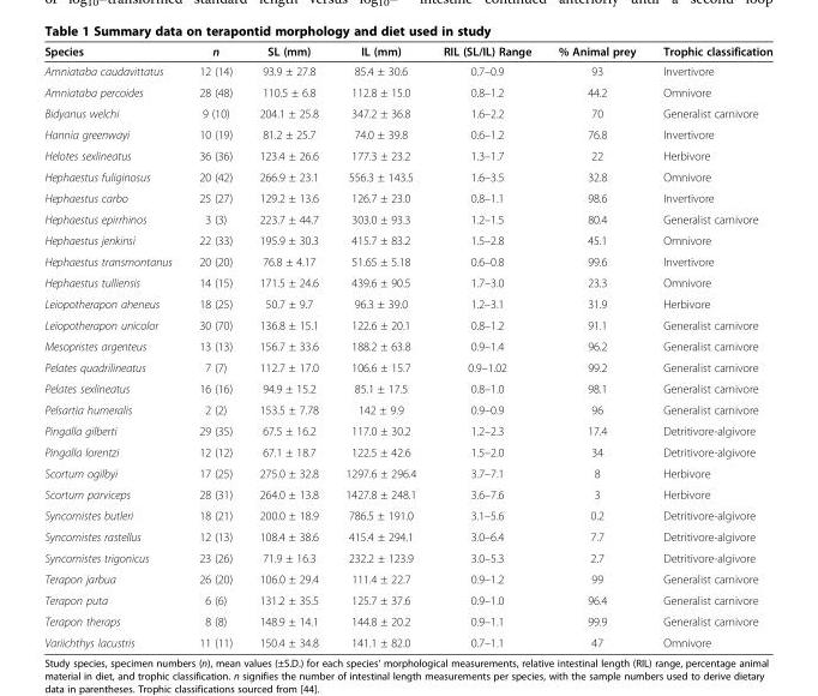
<table><thead><tr><td>Species</td><td>n</td><td>SL (mm)</td><td>IL (mm)</td><td>RIL (SL/IL) Range</td><td>% Animal prey</td><td>Trophic classification</td></tr></thead><tbody><tr><td>Amniataba caudavittatus</td><td>12 (14)</td><td>93.9 ± 27.8</td><td>85.4 ± 30.6</td><td>0.7–0.9</td><td>93</td><td>Invertivore</td></tr><tr><td>Amniataba percoides</td><td>28 (48)</td><td>110.5 ± 6.8</td><td>112.8 ± 15.0</td><td>0.8–1.2</td><td>44.2</td><td>Omnivore</td></tr><tr><td>Bidyanus welchi</td><td>9 (10)</td><td>204.1 ± 25.8</td><td>347.2 ± 36.8</td><td>1.6–2.2</td><td>70</td><td>Generalist carnivore</td></tr><tr><td>Hannia greenwayi</td><td>10 (19)</td><td>81.2 ± 25.7</td><td>74.0 ± 39.8</td><td>0.6–1.2</td><td>76.8</td><td>Invertivore</td></tr><tr><td>Helotes sexlineatus</td><td>36 (36)</td><td>123.4 ± 26.6</td><td>177.3 ± 23.2</td><td>1.3–1.7</td><td>22</td><td>Herbivore</td></tr><tr><td>Hephaestus fuliginosus</td><td>20 (42)</td><td>266.9 ± 23.1</td><td>556.3 ± 143.5</td><td>1.6–3.5</td><td>32.8</td><td>Omnivore</td></tr><tr><td>Hephaestus carbo</td><td>25 (27)</td><td>129.2 ± 13.6</td><td>126.7 ± 23.0</td><td>0.8–1.1</td><td>98.6</td><td>Invertivore</td></tr><tr><td>Hephaestus epirrhinos</td><td>3 (3)</td><td>223.7 ± 44.7</td><td>303.0 ± 93.3</td><td>1.2–1.5</td><td>80.4</td><td>Generalist carnivore</td></tr><tr><td>Hephaestus jenkinsi</td><td>22 (33)</td><td>195.9 ± 30.3</td><td>415.7 ± 83.2</td><td>1.5–2.8</td><td>45.1</td><td>Omnivore</td></tr><tr><td>Hephaestus transmontanus</td><td>20 (20)</td><td>76.8 ± 4.17</td><td>51.65 ± 5.18</td><td>0.6–0.8</td><td>99.6</td><td>Invertivore</td></tr><tr><td>Hephaestus tulliensis</td><td>14 (15)</td><td>171.5 ± 24.6</td><td>439.6 ± 90.5</td><td>1.7–3.0</td><td>23.3</td><td>Omnivore</td></tr><tr><td>Leiopotherapon aheneus</td><td>18 (25)</td><td>50.7 ± 9.7</td><td>96.3 ± 39.0</td><td>1.2–3.1</td><td>31.9</td><td>Herbivore</td></tr><tr><td>Leiopotherapon unicolor</td><td>30 (70)</td><td>136.8 ± 15.1</td><td>122.6 ± 20.1</td><td>0.8–1.2</td><td>91.1</td><td>Generalist carnivore</td></tr><tr><td>Mesopristes argenteus</td><td>13 (13)</td><td>156.7 ± 33.6</td><td>188.2 ± 63.8</td><td>0.9–1.4</td><td>96.2</td><td>Generalist carnivore</td></tr><tr><td>Pelates quadrilineatus</td><td>7 (7)</td><td>112.7 ± 17.0</td><td>106.6 ± 15.7</td><td>0.9–1.02</td><td>99.2</td><td>Generalist carnivore</td></tr><tr><td>Pelates sexlineatus</td><td>16 (16)</td><td>94.9 ± 15.2</td><td>85.1 ± 17.5</td><td>0.8–1.0</td><td>98.1</td><td>Generalist carnivore</td></tr><tr><td>Pelsartia humeralis</td><td>2 (2)</td><td>153.5 ± 7.78</td><td>142 ± 9.9</td><td>0.9–0.9</td><td>96</td><td>Generalist carnivore</td></tr><tr><td>Pingalla gilberti</td><td>29 (35)</td><td>67.5 ± 16.2</td><td>117.0 ± 30.2</td><td>1.2–2.3</td><td>17.4</td><td>Detritivore-algivore</td></tr><tr><td>Pingalla lorentzi</td><td>12 (12)</td><td>67.1 ± 18.7</td><td>122.5 ± 42.6</td><td>1.5–2.0</td><td>34</td><td>Detritivore-algivore</td></tr><tr><td>Scortum ogilbyi</td><td>17 (25)</td><td>275.0 ± 32.8</td><td>1297.6 ± 296.4</td><td>3.7–7.1</td><td>8</td><td>Herbivore</td></tr><tr><td>Scortum parviceps</td><td>28 (31)</td><td>264.0 ± 13.8</td><td>1427.8 ± 248.1</td><td>3.6–7.6</td><td>3</td><td>Herbivore</td></tr><tr><td>Syncomistes butleri</td><td>18 (21)</td><td>200.0 ± 18.9</td><td>786.5 ± 191.0</td><td>3.1–5.6</td><td>0.2</td><td>Detritivore-algivore</td></tr><tr><td>Syncomistes rastellus</td><td>12 (13)</td><td>108.4 ± 38.6</td><td>415.4 ± 294.1</td><td>3.0–6.4</td><td>7.7</td><td>Detritivore-algivore</td></tr><tr><td>Syncomistes trigonicus</td><td>23 (26)</td><td>71.9 ± 16.3</td><td>232.2 ± 123.9</td><td>3.0–5.3</td><td>2.7</td><td>Detritivore-algivore</td></tr><tr><td>Terapon jarbua</td><td>26 (20)</td><td>106.0 ± 29.4</td><td>111.4 ± 22.7</td><td>0.9–1.2</td><td>99</td><td>Generalist carnivore</td></tr><tr><td>Terapon puta</td><td>6 (6)</td><td>131.2 ± 35.5</td><td>125.7 ± 37.6</td><td>0.9–1.0</td><td>96.4</td><td>Generalist carnivore</td></tr><tr><td>Terapon theraps</td><td>8 (8)</td><td>148.9 ± 14.1</td><td>144.8 ± 20.2</td><td>0.9–1.1</td><td>99.9</td><td>Generalist carnivore</td></tr><tr><td>Variichthys lacustris</td><td>11 (11)</td><td>150.4 ± 34.8</td><td>141.1 ± 82.0</td><td>0.7–1.1</td><td>47</td><td>Omnivore</td></tr></tbody></table>